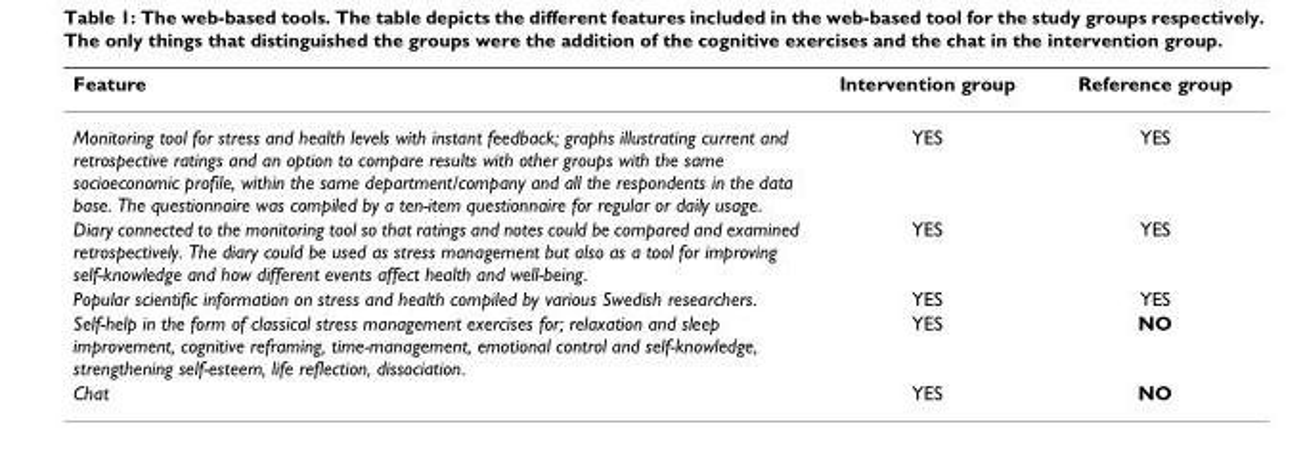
<table><thead><tr><td>Feature</td><td>Intervention group</td><td>Reference group</td></tr></thead><tbody><tr><td>Monitoring tool for stress and health levels with instant feedback; graphs illustrating current and retrospective ratings and an option to compare results with other groups with the same socioeconomic profile, within the same department/company and all the respondents in the data base. The questionnaire was compiled by a ten-item questionnaire for regular or daily usage.</td><td>YES</td><td>YES</td></tr><tr><td>Diary connected to the monitoring tool so that ratings and notes could be compared and examined retrospectively. The diary could be used as stress management but also as a tool for improving self-knowledge and how different events affect health and well-being.</td><td>YES</td><td>YES</td></tr><tr><td>Popular scientific information on stress and health compiled by various Swedish researchers.</td><td>YES</td><td>YES</td></tr><tr><td>Self-help in the form of classical stress management exercises for; relaxation and sleep improvement, cognitive reframing, time-management, emotional control and self-knowledge, strengthening self-esteem, life reflection, dissociation.</td><td>YES</td><td>NO</td></tr><tr><td>Chat</td><td>YES</td><td>NO</td></tr></tbody></table>